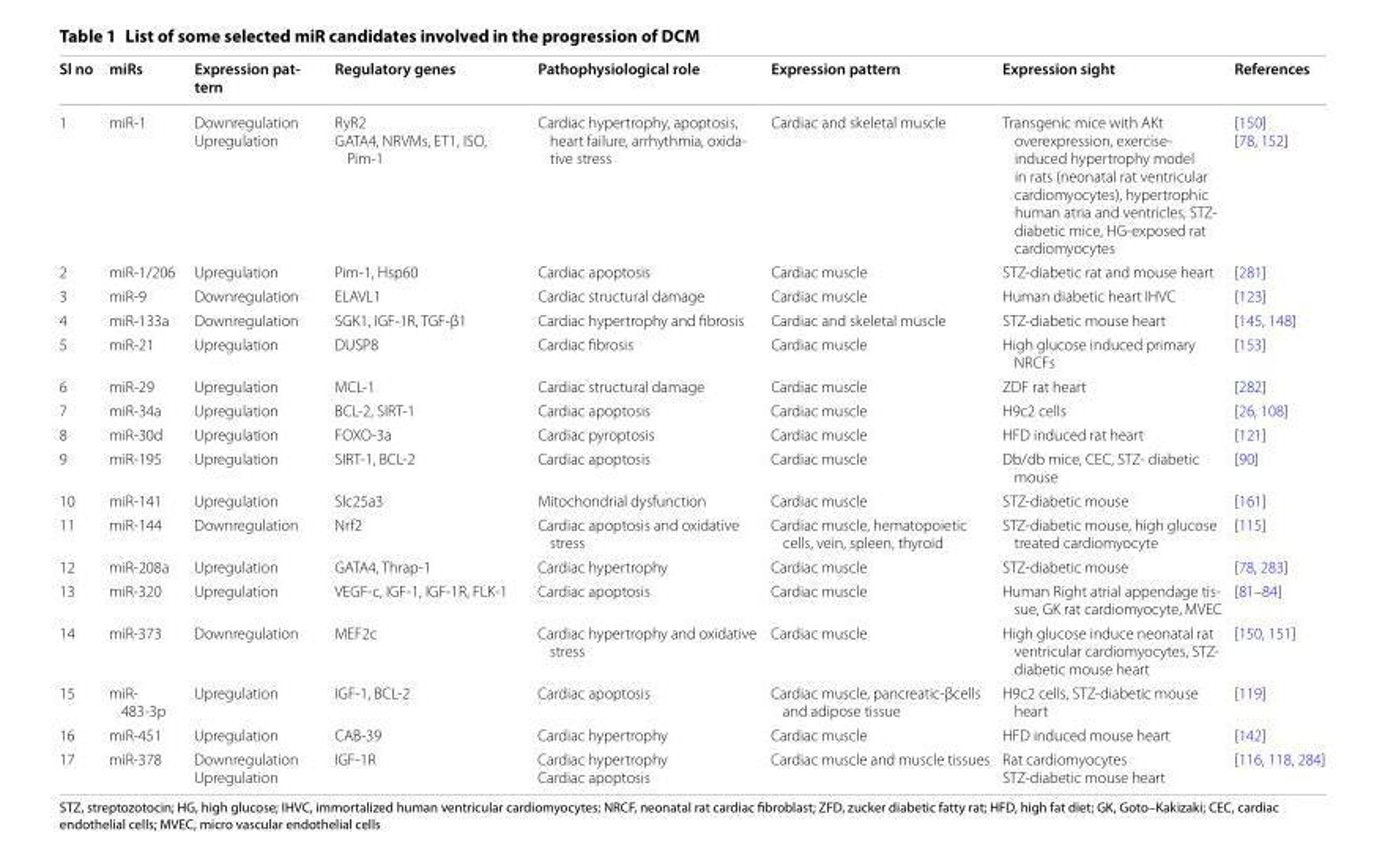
<table><thead><tr><td>Sl no</td><td>miRs</td><td>Expression pat‑ tern</td><td>Regulatory genes</td><td>Pathophysiological role</td><td>Expression pattern</td><td>Expression sight</td><td>References</td></tr></thead><tbody><tr><td>1</td><td>miR-1</td><td>Downregulation Upregulation</td><td>RyR2 GATA4, NRVMs, ET1, ISO, Pim-1</td><td>Cardiac hypertrophy, apoptosis, heart failure, arrhythmia, oxida- tive stress</td><td>Cardiac and skeletal muscle</td><td>Transgenic mice with AKt overexpression, exercise- induced hypertrophy model in rats (neonatal rat ventricular cardiomyocytes), hypertrophic human atria and ventricles, STZ- diabetic mice, HG-exposed rat cardiomyocytes</td><td>[150] [78, 152]</td></tr><tr><td>2</td><td>miR-1/206</td><td>Upregulation</td><td>Pim-1, Hsp60</td><td>Cardiac apoptosis</td><td>Cardiac muscle</td><td>STZ-diabetic rat and mouse heart</td><td>[281]</td></tr><tr><td>3</td><td>miR-9</td><td>Downregulation</td><td>ELAVL1</td><td>Cardiac structural damage</td><td>Cardiac muscle</td><td>Human diabetic heart IHVC</td><td>[123]</td></tr><tr><td>4</td><td>miR-133a</td><td>Downregulation</td><td>SGK1, IGF-1R, TGF-β1</td><td>Cardiac hypertrophy and fibrosis</td><td>Cardiac and skeletal muscle</td><td>STZ-diabetic mouse heart</td><td>[145, 148]</td></tr><tr><td>5</td><td>miR-21</td><td>Upregulation</td><td>DUSP8</td><td>Cardiac fibrosis</td><td>Cardiac muscle</td><td>High glucose induced primary NRCFs</td><td>[153]</td></tr><tr><td>6</td><td>miR-29</td><td>Upregulation</td><td>MCL-1</td><td>Cardiac structural damage</td><td>Cardiac muscle</td><td>ZDF rat heart</td><td>[282]</td></tr><tr><td>7</td><td>miR-34a</td><td>Upregulation</td><td>BCL-2, SIRT-1</td><td>Cardiac apoptosis</td><td>Cardiac muscle</td><td>H9c2 cells</td><td>[26, 108]</td></tr><tr><td>8</td><td>miR-30d</td><td>Upregulation</td><td>FOXO-3a</td><td>Cardiac pyroptosis</td><td>Cardiac muscle</td><td>HFD induced rat heart</td><td>[121]</td></tr><tr><td>9</td><td>miR-195</td><td>Upregulation</td><td>SIRT-1, BCL-2</td><td>Cardiac apoptosis</td><td>Cardiac muscle</td><td>Db/db mice, CEC, STZ- diabetic mouse</td><td>[90]</td></tr><tr><td>10</td><td>miR-141</td><td>Upregulation</td><td>Slc25a3</td><td>Mitochondrial dysfunction</td><td>Cardiac muscle</td><td>STZ-diabetic mouse</td><td>[161]</td></tr><tr><td>11</td><td>miR-144</td><td>Downregulation</td><td>Nrf2</td><td>Cardiac apoptosis and oxidative stress</td><td>Cardiac muscle, hematopoietic cells, vein, spleen, thyroid</td><td>STZ-diabetic mouse, high glucose treated cardiomyocyte</td><td>[115]</td></tr><tr><td>12</td><td>miR-208a</td><td>Upregulation</td><td>GATA4, Thrap-1</td><td>Cardiac hypertrophy</td><td>Cardiac muscle</td><td>STZ-diabetic mouse</td><td>[78, 283]</td></tr><tr><td>13</td><td>miR-320</td><td>Upregulation</td><td>VEGF-c, IGF-1, IGF-1R, FLK-1</td><td>Cardiac apoptosis</td><td>Cardiac muscle</td><td>Human Right atrial appendage tis- sue, GK rat cardiomyocyte, MVEC</td><td>[81–84]</td></tr><tr><td>14</td><td>miR-373</td><td>Downregulation</td><td>MEF2c</td><td>Cardiac hypertrophy and oxidative stress</td><td>Cardiac muscle</td><td>High glucose induce neonatal rat ventricular cardiomyocytes, STZ- diabetic mouse heart</td><td>[150, 151]</td></tr><tr><td>15</td><td>miR- 483-3p</td><td>Upregulation</td><td>IGF-1, BCL-2</td><td>Cardiac apoptosis</td><td>Cardiac muscle, pancreatic-βcells and adipose tissue</td><td>H9c2 cells, STZ-diabetic mouse heart</td><td>[119]</td></tr><tr><td>16</td><td>miR-451</td><td>Upregulation</td><td>CAB-39</td><td>Cardiac hypertrophy</td><td>Cardiac muscle</td><td>HFD induced mouse heart</td><td>[142]</td></tr><tr><td>17</td><td>miR-378</td><td>Downregulation Upregulation</td><td>IGF-1R</td><td>Cardiac hypertrophy Cardiac apoptosis</td><td>Cardiac muscle and muscle tissues</td><td>Rat cardiomyocytes STZ-diabetic mouse heart</td><td>[116, 118, 284]</td></tr></tbody></table>